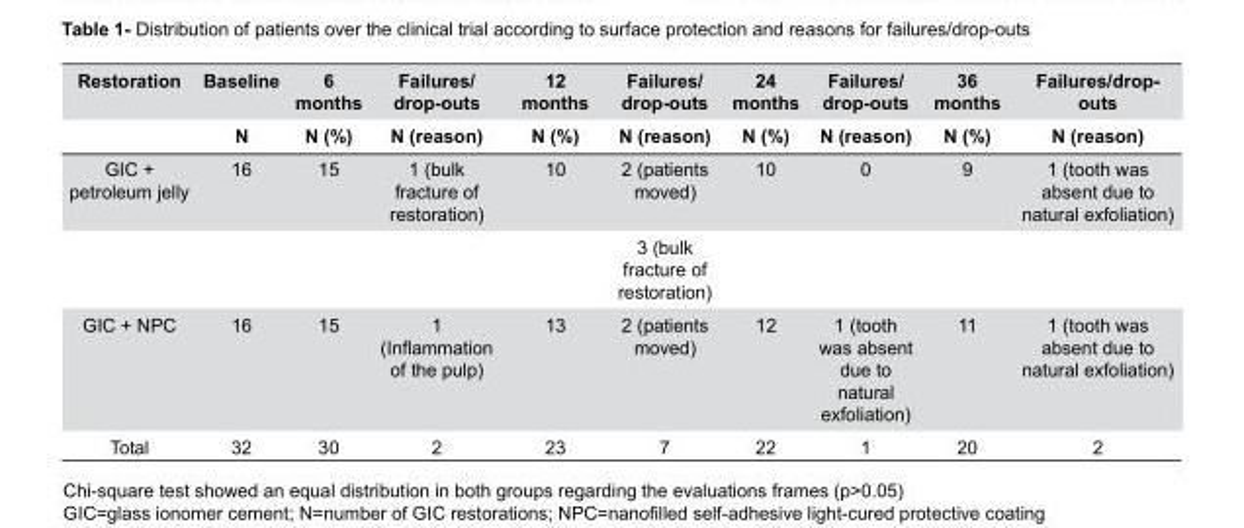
<table><thead><tr><td rowspan="2">Restoration</td><td rowspan="2">Baseline N</td><td rowspan="2">6 months N (%)</td><td rowspan="2">Failures/ drop-outs N (reason)</td><td rowspan="2">12 months N (%)</td><td rowspan="2">Failures/ drop-outs N (reason)</td><td rowspan="2">24 months N (%)</td><td rowspan="2">Failures/ drop-outs N (reason)</td><td rowspan="2">36 months N (%)</td><td rowspan="2">Failures/drop- outs N (reason)</td></tr><tr></tr></thead><tbody><tr><td>GIC + petroleum jelly</td><td>16</td><td>15</td><td>1 (bulk fracture of restoration)</td><td>10</td><td>2 (patients moved)</td><td>10</td><td>0</td><td>9</td><td>1 (tooth was absent due to natural exfoliation)</td></tr><tr><td colspan="10">3 (bulk fracture of restoration)</td></tr><tr><td>GIC + NPC</td><td>16</td><td>15</td><td>1 (Inflammation of the pulp)</td><td>13</td><td>2 (patients moved)</td><td>12</td><td>1 (tooth was absent due to natural exfoliation)</td><td>11</td><td>1 (tooth was absent due to natural exfoliation)</td></tr><tr><td>Total</td><td>32</td><td>30</td><td>2</td><td>23</td><td>7</td><td>22</td><td>1</td><td>20</td><td>2</td></tr></tbody></table>